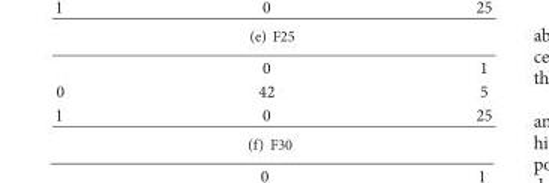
<table><thead><tr><td></td><td>0</td><td>1</td></tr></thead><tbody><tr><td>0</td><td>42</td><td>5</td></tr><tr><td>1</td><td>0</td><td>25</td></tr></tbody></table>